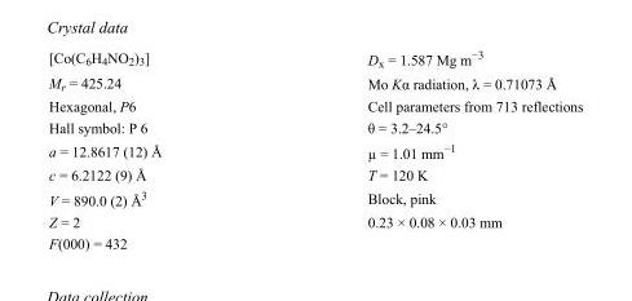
<table><tbody><tr><td>[Co(C<sub>6</sub>H<sub>4</sub>NO<sub>2</sub>)<sub>3</sub>]</td><td>D<sub>x</sub> = 1.587 Mg m<sup>−3</sup></td></tr><tr><td>M<sub>r</sub> = 425.24</td><td>Mo Kα radiation, λ = 0.71073 Å</td></tr><tr><td>Hexagonal, P6</td><td>Cell parameters from 713 reflections</td></tr><tr><td>Hall symbol: P 6</td><td>θ = 3.2–24.5°</td></tr><tr><td>a = 12.8617 (12) Å</td><td>µ = 1.01 mm<sup>−1</sup></td></tr><tr><td>c = 6.2122 (9) Å</td><td>T = 120 K</td></tr><tr><td>V = 890.0 (2) Å<sup>3</sup></td><td>Block, pink</td></tr><tr><td>Z = 2</td><td>0.23 × 0.08 × 0.03 mm</td></tr><tr><td>F(000) = 432</td><td></td></tr></tbody></table>